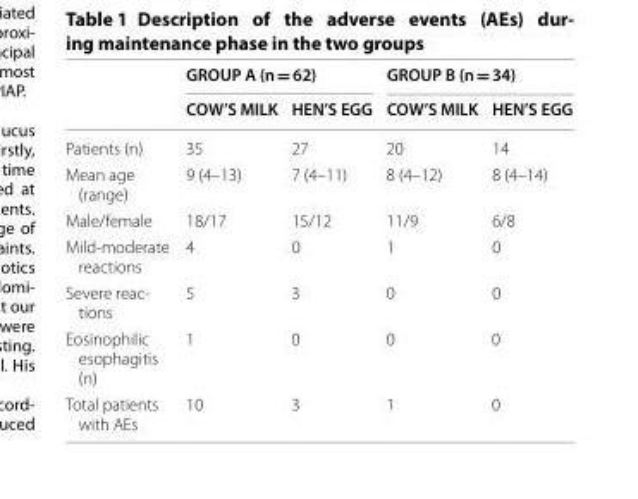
<table><thead><tr><td rowspan="2"></td><td colspan="2">GROUP A (n = 62)</td><td colspan="2">GROUP B (n = 34)</td></tr><tr><td>COW’S MILK</td><td>HEN’S EGG</td><td>COW’S MILK</td><td>HEN’S EGG</td></tr></thead><tbody><tr><td>Patients (n)</td><td>35</td><td>27</td><td>20</td><td>14</td></tr><tr><td>Mean age (range)</td><td>9 (4–13)</td><td>7 (4–11)</td><td>8 (4–12)</td><td>8 (4–14)</td></tr><tr><td>Male/female</td><td>18/17</td><td>15/12</td><td>11/9</td><td>6/8</td></tr><tr><td>Mild-moderate reactions</td><td>4</td><td>0</td><td>1</td><td>0</td></tr><tr><td>Severe reac- tions</td><td>5</td><td>3</td><td>0</td><td>0</td></tr><tr><td>Eosinophilic esophagitis (n)</td><td>1</td><td>0</td><td>0</td><td>0</td></tr><tr><td>Total patients with AEs</td><td>10</td><td>3</td><td>1</td><td>0</td></tr></tbody></table>